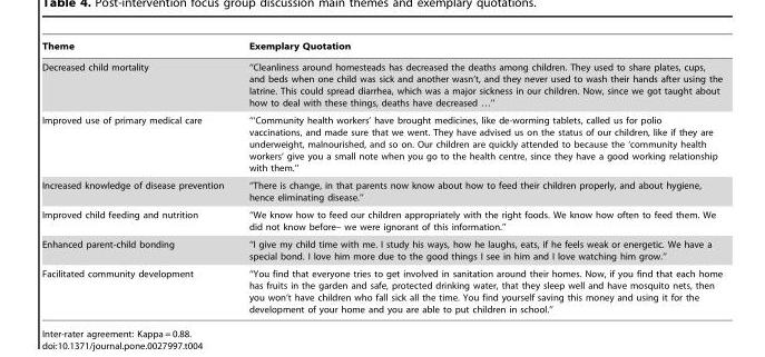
<table><thead><tr><td>Theme</td><td>Exemplary Quotation</td></tr></thead><tbody><tr><td>Decreased child mortality</td><td>‘‘Cleanliness around homesteads has decreased the deaths among children. They used to share plates, cups, and beds when one child was sick and another wasn’t, and they never used to wash their hands after using the latrine. This could spread diarrhea, which was a major sickness in our children. Now, since we got taught about how to deal with these things, deaths have decreased …’’</td></tr><tr><td>Improved use of primary medical care</td><td>‘‘‘Community health workers’ have brought medicines, like de-worming tablets, called us for polio vaccinations, and made sure that we went. They have advised us on the status of our children, like if they are underweight, malnourished, and so on. Our children are quickly attended to because the ‘community health workers’ give you a small note when you go to the health centre, since they have a good working relationship with them.’’</td></tr><tr><td>Increased knowledge of disease prevention</td><td>‘‘There is change, in that parents now know about how to feed their children properly, and about hygiene, hence eliminating disease.’’</td></tr><tr><td>Improved child feeding and nutrition</td><td>‘‘We know how to feed our children appropriately with the right foods. We know how often to feed them. We did not know before– we were ignorant of this information.’’</td></tr><tr><td>Enhanced parent-child bonding</td><td>‘‘I give my child time with me. I study his ways, how he laughs, eats, if he feels weak or energetic. We have a special bond. I love him more due to the good things I see in him and I love watching him grow.’’</td></tr><tr><td>Facilitated community development</td><td>‘‘You find that everyone tries to get involved in sanitation around their homes. Now, if you find that each home has fruits in the garden and safe, protected drinking water, that they sleep well and have mosquito nets, then you won’t have children who fall sick all the time. You find yourself saving this money and using it for the development of your home and you are able to put children in school.’’</td></tr></tbody></table>